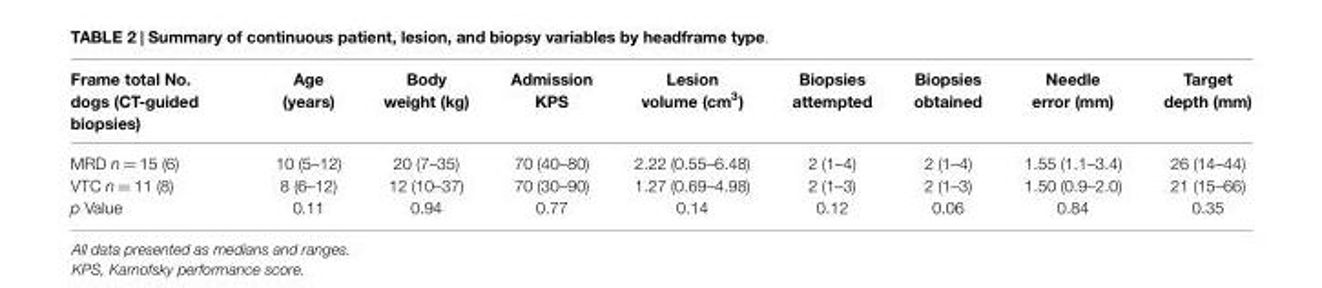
<table><thead><tr><td>Frame total No. dogs (CT-guided biopsies)</td><td>Age (years)</td><td>Body weight (kg)</td><td>Admission KPS</td><td>Lesion volume (cm<sup>3</sup>)</td><td>Biopsies attempted</td><td>Biopsies obtained</td><td>Needle error (mm)</td><td>Target depth (mm)</td></tr></thead><tbody><tr><td>MRD n = 15 (6)</td><td>10 (5–12)</td><td>20 (7–35)</td><td>70 (40–80)</td><td>2.22 (0.55–6.48)</td><td>2 (1–4)</td><td>2 (1–4)</td><td>1.55 (1.1–3.4)</td><td>26 (14–44)</td></tr><tr><td>VTC n = 11 (8)</td><td>8 (6–12)</td><td>12 (10–37)</td><td>70 (30–90)</td><td>1.27 (0.69–4.98)</td><td>2 (1–3)</td><td>2 (1–3)</td><td>1.50 (0.9–2.0)</td><td>21 (15–66)</td></tr><tr><td>p Value</td><td>0.11</td><td>0.94</td><td>0.77</td><td>0.14</td><td>0.12</td><td>0.06</td><td>0.84</td><td>0.35</td></tr></tbody></table>